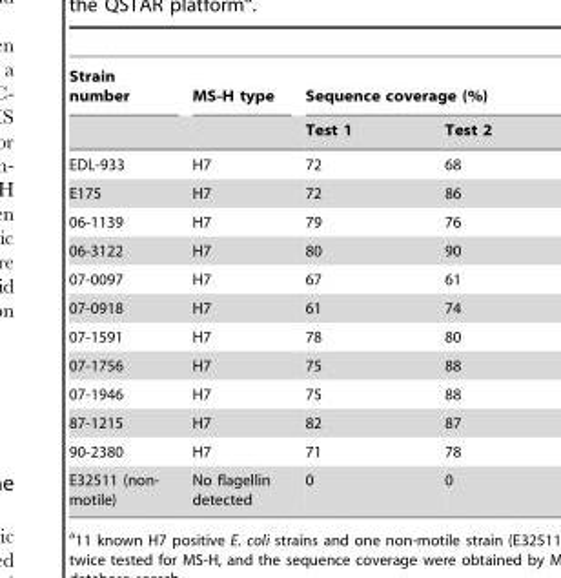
<table><thead><tr><td rowspan="2">Strain number</td><td rowspan="2">MS-H type</td><td colspan="2">Sequence coverage (%)</td></tr><tr><td>Test 1</td><td>Test 2</td></tr></thead><tbody><tr><td>EDL-933</td><td>H7</td><td>72</td><td>68</td></tr><tr><td>E175</td><td>H7</td><td>72</td><td>86</td></tr><tr><td>06-1139</td><td>H7</td><td>79</td><td>76</td></tr><tr><td>06-3122</td><td>H7</td><td>80</td><td>90</td></tr><tr><td>07-0097</td><td>H7</td><td>67</td><td>61</td></tr><tr><td>07-0918</td><td>H7</td><td>61</td><td>74</td></tr><tr><td>07-1591</td><td>H7</td><td>78</td><td>80</td></tr><tr><td>07-1756</td><td>H7</td><td>75</td><td>88</td></tr><tr><td>07-1946</td><td>H7</td><td>75</td><td>88</td></tr><tr><td>87-1215</td><td>H7</td><td>82</td><td>87</td></tr><tr><td>90-2380</td><td>H7</td><td>71</td><td>78</td></tr><tr><td>E32511 (non- motile)</td><td>No flagellin detected</td><td>0</td><td>0</td></tr></tbody></table>